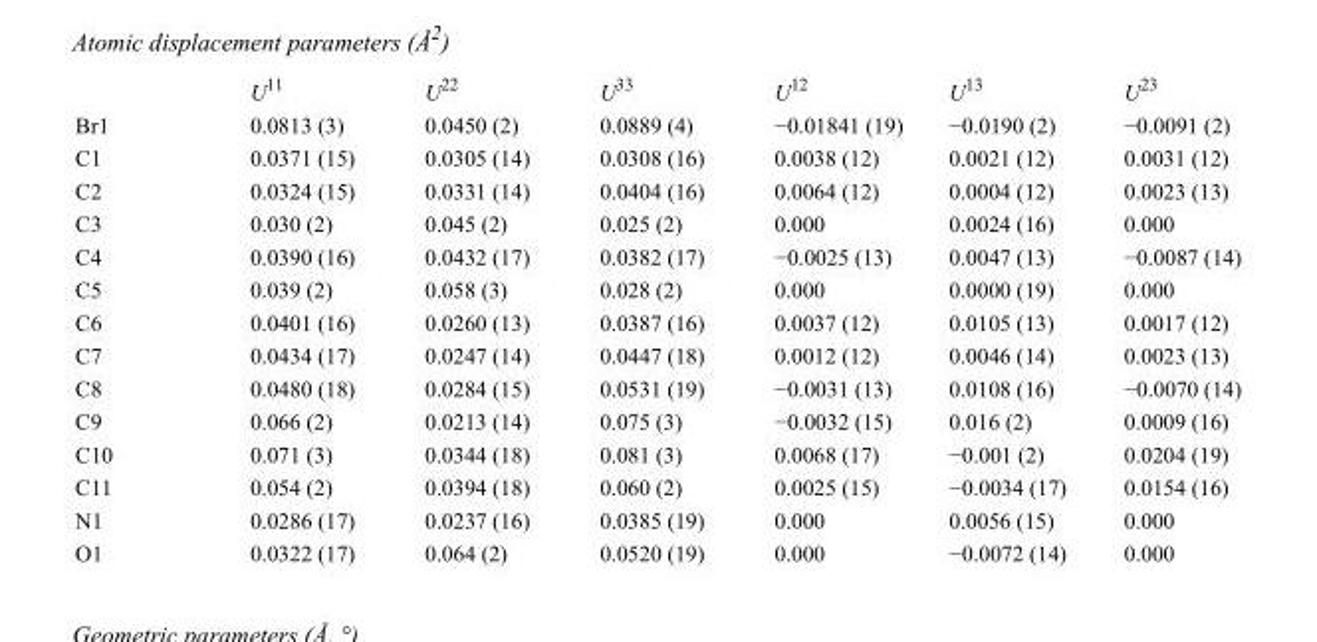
<table><thead><tr><td></td><td>U<sup>11</sup></td><td>U<sup>22</sup></td><td>U<sup>33</sup></td><td>U<sup>12</sup></td><td>U<sup>13</sup></td><td>U<sup>23</sup></td></tr></thead><tbody><tr><td>Br1</td><td>0.0813 (3)</td><td>0.0450 (2)</td><td>0.0889 (4)</td><td>−0.01841 (19)</td><td>−0.0190 (2)</td><td>−0.0091 (2)</td></tr><tr><td>C1</td><td>0.0371 (15)</td><td>0.0305 (14)</td><td>0.0308 (16)</td><td>0.0038 (12)</td><td>0.0021 (12)</td><td>0.0031 (12)</td></tr><tr><td>C2</td><td>0.0324 (15)</td><td>0.0331 (14)</td><td>0.0404 (16)</td><td>0.0064 (12)</td><td>0.0004 (12)</td><td>0.0023 (13)</td></tr><tr><td>C3</td><td>0.030 (2)</td><td>0.045 (2)</td><td>0.025 (2)</td><td>0.000</td><td>0.0024 (16)</td><td>0.000</td></tr><tr><td>C4</td><td>0.0390 (16)</td><td>0.0432 (17)</td><td>0.0382 (17)</td><td>−0.0025 (13)</td><td>0.0047 (13)</td><td>−0.0087 (14)</td></tr><tr><td>C5</td><td>0.039 (2)</td><td>0.058 (3)</td><td>0.028 (2)</td><td>0.000</td><td>0.0000 (19)</td><td>0.000</td></tr><tr><td>C6</td><td>0.0401 (16)</td><td>0.0260 (13)</td><td>0.0387 (16)</td><td>0.0037 (12)</td><td>0.0105 (13)</td><td>0.0017 (12)</td></tr><tr><td>C7</td><td>0.0434 (17)</td><td>0.0247 (14)</td><td>0.0447 (18)</td><td>0.0012 (12)</td><td>0.0046 (14)</td><td>0.0023 (13)</td></tr><tr><td>C8</td><td>0.0480 (18)</td><td>0.0284 (15)</td><td>0.0531 (19)</td><td>−0.0031 (13)</td><td>0.0108 (16)</td><td>−0.0070 (14)</td></tr><tr><td>C9</td><td>0.066 (2)</td><td>0.0213 (14)</td><td>0.075 (3)</td><td>−0.0032 (15)</td><td>0.016 (2)</td><td>0.0009 (16)</td></tr><tr><td>C10</td><td>0.071 (3)</td><td>0.0344 (18)</td><td>0.081 (3)</td><td>0.0068 (17)</td><td>−0.001 (2)</td><td>0.0204 (19)</td></tr><tr><td>C11</td><td>0.054 (2)</td><td>0.0394 (18)</td><td>0.060 (2)</td><td>0.0025 (15)</td><td>−0.0034 (17)</td><td>0.0154 (16)</td></tr><tr><td>N1</td><td>0.0286 (17)</td><td>0.0237 (16)</td><td>0.0385 (19)</td><td>0.000</td><td>0.0056 (15)</td><td>0.000</td></tr><tr><td>O1</td><td>0.0322 (17)</td><td>0.064 (2)</td><td>0.0520 (19)</td><td>0.000</td><td>−0.0072 (14)</td><td>0.000</td></tr></tbody></table>